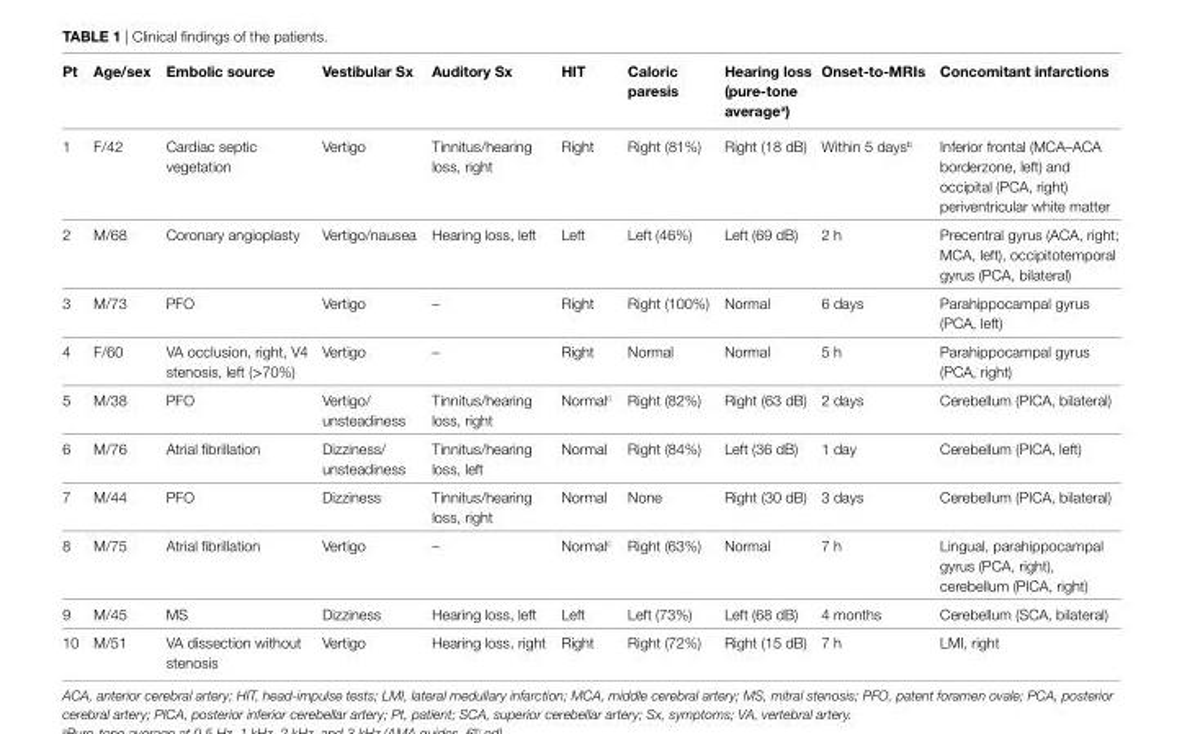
<table><thead><tr><td>Pt</td><td>age/sex</td><td>embolic source</td><td>Vestibular sx</td><td>auditory sx</td><td>hiT</td><td>caloric paresis</td><td>hearing loss (pure-tone average<sup>a</sup>)</td><td>Onset-to-Mris</td><td>concomitant infarctions</td></tr></thead><tbody><tr><td>1</td><td>F/42</td><td>Cardiac septic vegetation</td><td>Vertigo</td><td>Tinnitus/hearing loss, right</td><td>Right</td><td>Right (81%)</td><td>Right (18 dB)</td><td>Within 5 days<sup>b</sup></td><td>Inferior frontal (MCA–ACA borderzone, left) and occipital (PCA, right) periventricular white matter</td></tr><tr><td>2</td><td>M/68</td><td>Coronary angioplasty</td><td>Vertigo/nausea</td><td>Hearing loss, left</td><td>Left</td><td>Left (46%)</td><td>Left (69 dB)</td><td>2 h</td><td>Precentral gyrus (ACA, right; MCA, left), occipitotemporal gyrus (PCA, bilateral)</td></tr><tr><td>3</td><td>M/73</td><td>PFO</td><td>Vertigo</td><td>–</td><td>Right</td><td>Right (100%)</td><td>Normal</td><td>6 days</td><td>Parahippocampal gyrus (PCA, left)</td></tr><tr><td>4</td><td>F/60</td><td>VA occlusion, right, V4 stenosis, left (&gt;70%)</td><td>Vertigo</td><td>–</td><td>Right</td><td>Normal</td><td>Normal</td><td>5 h</td><td>Parahippocampal gyrus (PCA, right)</td></tr><tr><td>5</td><td>M/38</td><td>PFO</td><td>Vertigo/ unsteadiness</td><td>Tinnitus/hearing loss, right</td><td>Normal<sup>c</sup></td><td>Right (82%)</td><td>Right (63 dB)</td><td>2 days</td><td>Cerebellum (PICA, bilateral)</td></tr><tr><td>6</td><td>M/76</td><td>Atrial fibrillation</td><td>Dizziness/ unsteadiness</td><td>Tinnitus/hearing loss, left</td><td>Normal</td><td>Right (84%)</td><td>Left (36 dB)</td><td>1 day</td><td>Cerebellum (PICA, left)</td></tr><tr><td>7</td><td>M/44</td><td>PFO</td><td>Dizziness</td><td>Tinnitus/hearing loss, right</td><td>Normal</td><td>None</td><td>Right (30 dB)</td><td>3 days</td><td>Cerebellum (PICA, bilateral)</td></tr><tr><td>8</td><td>M/75</td><td>Atrial fibrillation</td><td>Vertigo</td><td>–</td><td>Normal<sup>c</sup></td><td>Right (63%)</td><td>Normal</td><td>7 h</td><td>Lingual, parahippocampal gyrus (PCA, right), cerebellum (PICA, right)</td></tr><tr><td>9</td><td>M/45</td><td>MS</td><td>Dizziness</td><td>Hearing loss, left</td><td>Left</td><td>Left (73%)</td><td>Left (68 dB)</td><td>4 months</td><td>Cerebellum (SCA, bilateral)</td></tr><tr><td>10</td><td>M/51</td><td>VA dissection without stenosis</td><td>Vertigo</td><td>Hearing loss, right</td><td>Right</td><td>Right (72%)</td><td>Right (15 dB)</td><td>7 h</td><td>LMI, right</td></tr></tbody></table>